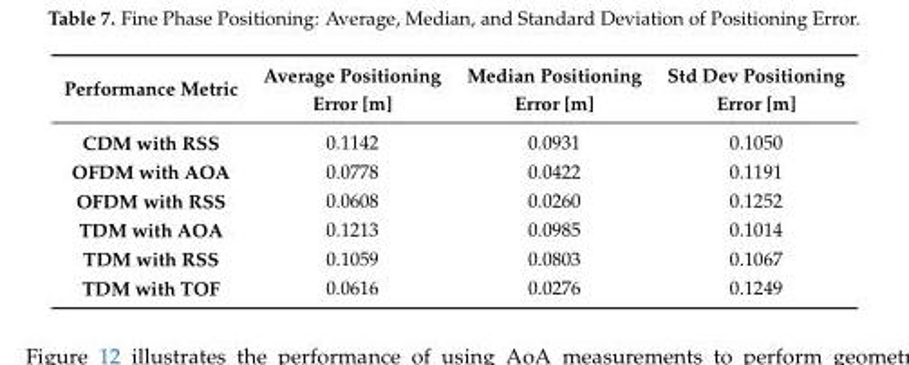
<table><thead><tr><td>Performance Metric</td><td>Average Positioning Error [m]</td><td>Median Positioning Error [m]</td><td>Std Dev Positioning Error [m]</td></tr></thead><tbody><tr><td>CDM with RSS</td><td>0.1142</td><td>0.0931</td><td>0.1050</td></tr><tr><td>OFDM with AOA</td><td>0.0778</td><td>0.0422</td><td>0.1191</td></tr><tr><td>OFDM with RSS</td><td>0.0608</td><td>0.0260</td><td>0.1252</td></tr><tr><td>TDM with AOA</td><td>0.1213</td><td>0.0985</td><td>0.1014</td></tr><tr><td>TDM with RSS</td><td>0.1059</td><td>0.0803</td><td>0.1067</td></tr><tr><td>TDM with TOF</td><td>0.0616</td><td>0.0276</td><td>0.1249</td></tr></tbody></table>